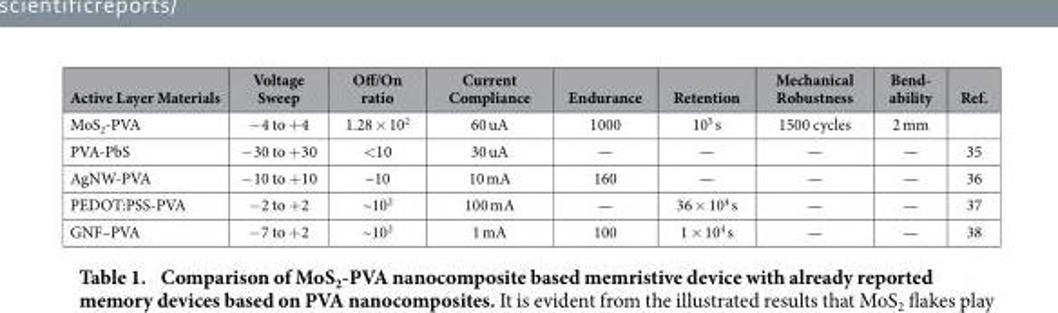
<table><thead><tr><td>Active Layer Materials</td><td>Voltage Sweep</td><td>Off/On ratio</td><td>Current Compliance</td><td>Endurance</td><td>Retention</td><td>Mechanical Robustness</td><td>Bend- ability</td><td>Ref.</td></tr></thead><tbody><tr><td>MoS<sub>2</sub>-PVA</td><td>− 4 to + 4</td><td>1.28 × 10<sup>2</sup></td><td>60 uA</td><td>1000</td><td>10<sup>5</sup> s</td><td>1500 cycles</td><td>2 mm</td><td></td></tr><tr><td>PVA-PbS</td><td>− 30 to + 30</td><td>&lt; 10</td><td>30 uA</td><td>—</td><td>—</td><td>—</td><td>—</td><td>35</td></tr><tr><td>AgNW-PVA</td><td>− 10 to + 10</td><td>~10</td><td>10 mA</td><td>160</td><td>—</td><td>—</td><td>—</td><td>36</td></tr><tr><td>PEDOT:PSS-PVA</td><td>− 2 to + 2</td><td>~10<sup>2</sup></td><td>100 mA</td><td>—</td><td>36 × 10<sup>4</sup> s</td><td>—</td><td>—</td><td>37</td></tr><tr><td>GNF–PVA</td><td>− 7 to + 2</td><td>~10<sup>2</sup></td><td>1 mA</td><td>100</td><td>1 × 10<sup>4</sup> s</td><td>—</td><td>—</td><td>38</td></tr></tbody></table>